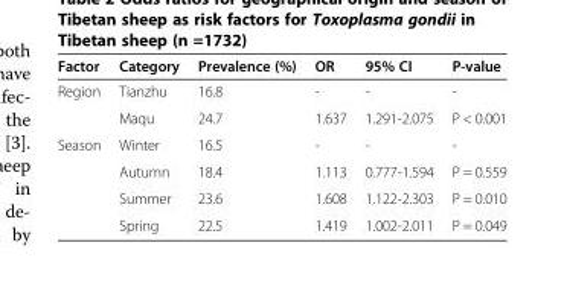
<table><thead><tr><td>Factor</td><td>Category</td><td>Prevalence (%)</td><td>OR</td><td>95% CI</td><td>P-value</td></tr></thead><tbody><tr><td rowspan="2">Region</td><td>Tianzhu</td><td>16.8</td><td>-</td><td>-</td><td>-</td></tr><tr><td>Maqu</td><td>24.7</td><td>1.637</td><td>1.291-2.075</td><td>P &lt; 0.001</td></tr><tr><td rowspan="4">Season</td><td>Winter</td><td>16.5</td><td>-</td><td>-</td><td>-</td></tr><tr><td>Autumn</td><td>18.4</td><td>1.113</td><td>0.777-1.594</td><td>P = 0.559</td></tr><tr><td>Summer</td><td>23.6</td><td>1.608</td><td>1.122-2.303</td><td>P = 0.010</td></tr><tr><td>Spring</td><td>22.5</td><td>1.419</td><td>1.002-2.011</td><td>P = 0.049</td></tr></tbody></table>